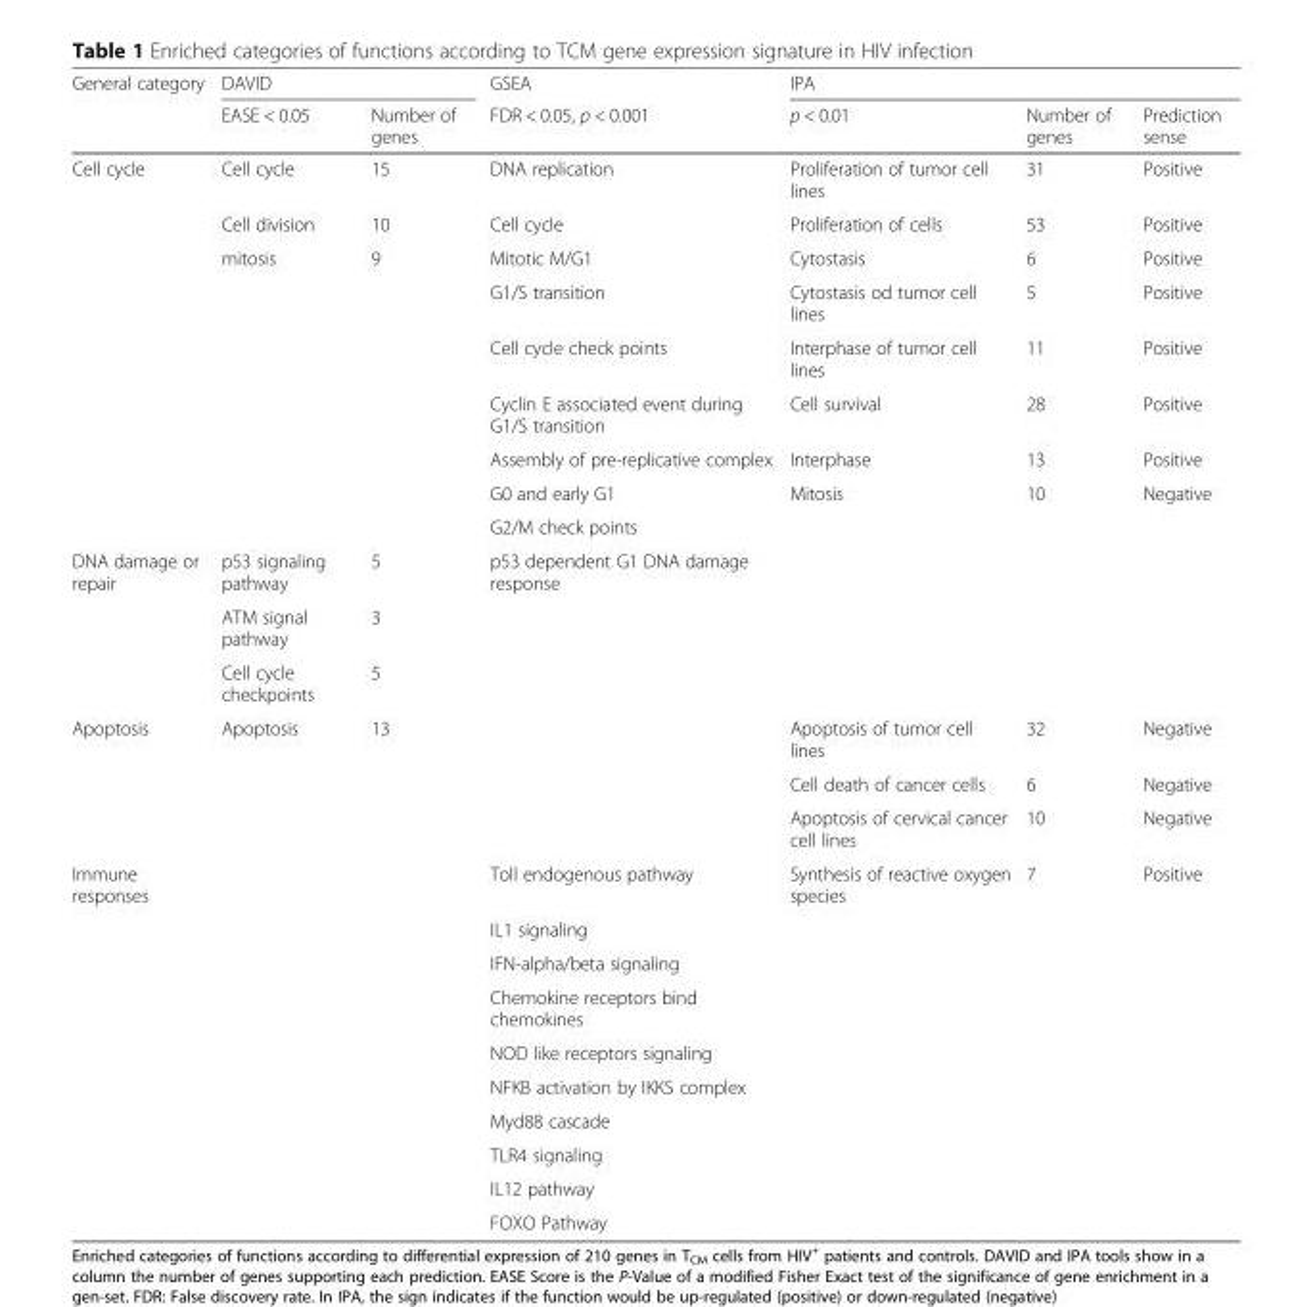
<table><thead><tr><td rowspan="2">General category</td><td colspan="2">DAVID</td><td rowspan="2">GSEA FDR &lt; 0.05, p &lt; 0.001</td><td colspan="3">IPA</td></tr><tr><td>EASE &lt; 0.05</td><td>Number of genes</td><td>p &lt; 0.01</td><td>Number of genes</td><td>Prediction sense</td></tr></thead><tbody><tr><td rowspan="9">Cell cycle</td><td>Cell cycle</td><td>15</td><td>DNA replication</td><td>Proliferation of tumor cell lines</td><td>31</td><td>Positive</td></tr><tr><td>Cell division</td><td>10</td><td>Cell cycle</td><td>Proliferation of cells</td><td>53</td><td>Positive</td></tr><tr><td>mitosis</td><td>9</td><td>Mitotic M/G1</td><td>Cytostasis</td><td>6</td><td>Positive</td></tr><tr><td></td><td></td><td>G1/S transition</td><td>Cytostasis od tumor cell lines</td><td>5</td><td>Positive</td></tr><tr><td></td><td></td><td>Cell cycle check points</td><td>Interphase of tumor cell lines</td><td>11</td><td>Positive</td></tr><tr><td></td><td></td><td>Cyclin E associated event during G1/S transition</td><td>Cell survival</td><td>28</td><td>Positive</td></tr><tr><td></td><td></td><td>Assembly of pre-replicative complex</td><td>Interphase</td><td>13</td><td>Positive</td></tr><tr><td></td><td></td><td>G0 and early G1</td><td>Mitosis</td><td>10</td><td>Negative</td></tr><tr><td></td><td></td><td>G2/M check points</td><td></td><td></td><td></td></tr><tr><td rowspan="3">DNA damage or repair</td><td>p53 signaling pathway</td><td>5</td><td>p53 dependent G1 DNA damage response</td><td></td><td></td><td></td></tr><tr><td>ATM signal pathway</td><td>3</td><td></td><td></td><td></td><td></td></tr><tr><td>Cell cycle checkpoints</td><td>5</td><td></td><td></td><td></td><td></td></tr><tr><td rowspan="3">Apoptosis</td><td>Apoptosis</td><td>13</td><td></td><td>Apoptosis of tumor cell lines</td><td>32</td><td>Negative</td></tr><tr><td></td><td></td><td></td><td>Cell death of cancer cells</td><td>6</td><td>Negative</td></tr><tr><td></td><td></td><td></td><td>Apoptosis of cervical cancer cell lines</td><td>10</td><td>Negative</td></tr><tr><td rowspan="10">Immune responses</td><td></td><td></td><td>Toll endogenous pathway</td><td>Synthesis of reactive oxygen species</td><td>7</td><td>Positive</td></tr><tr><td></td><td></td><td>IL1 signaling</td><td></td><td></td><td></td></tr><tr><td></td><td></td><td>IFN-alpha/beta signaling</td><td></td><td></td><td></td></tr><tr><td></td><td></td><td>Chemokine receptors bind chemokines</td><td></td><td></td><td></td></tr><tr><td></td><td></td><td>NOD like receptors signaling</td><td></td><td></td><td></td></tr><tr><td></td><td></td><td>NFKB activation by IKKS complex</td><td></td><td></td><td></td></tr><tr><td></td><td></td><td>Myd88 cascade</td><td></td><td></td><td></td></tr><tr><td></td><td></td><td>TLR4 signaling</td><td></td><td></td><td></td></tr><tr><td></td><td></td><td>IL12 pathway</td><td></td><td></td><td></td></tr><tr><td></td><td></td><td>FOXO Pathway</td><td></td><td></td><td></td></tr></tbody></table>